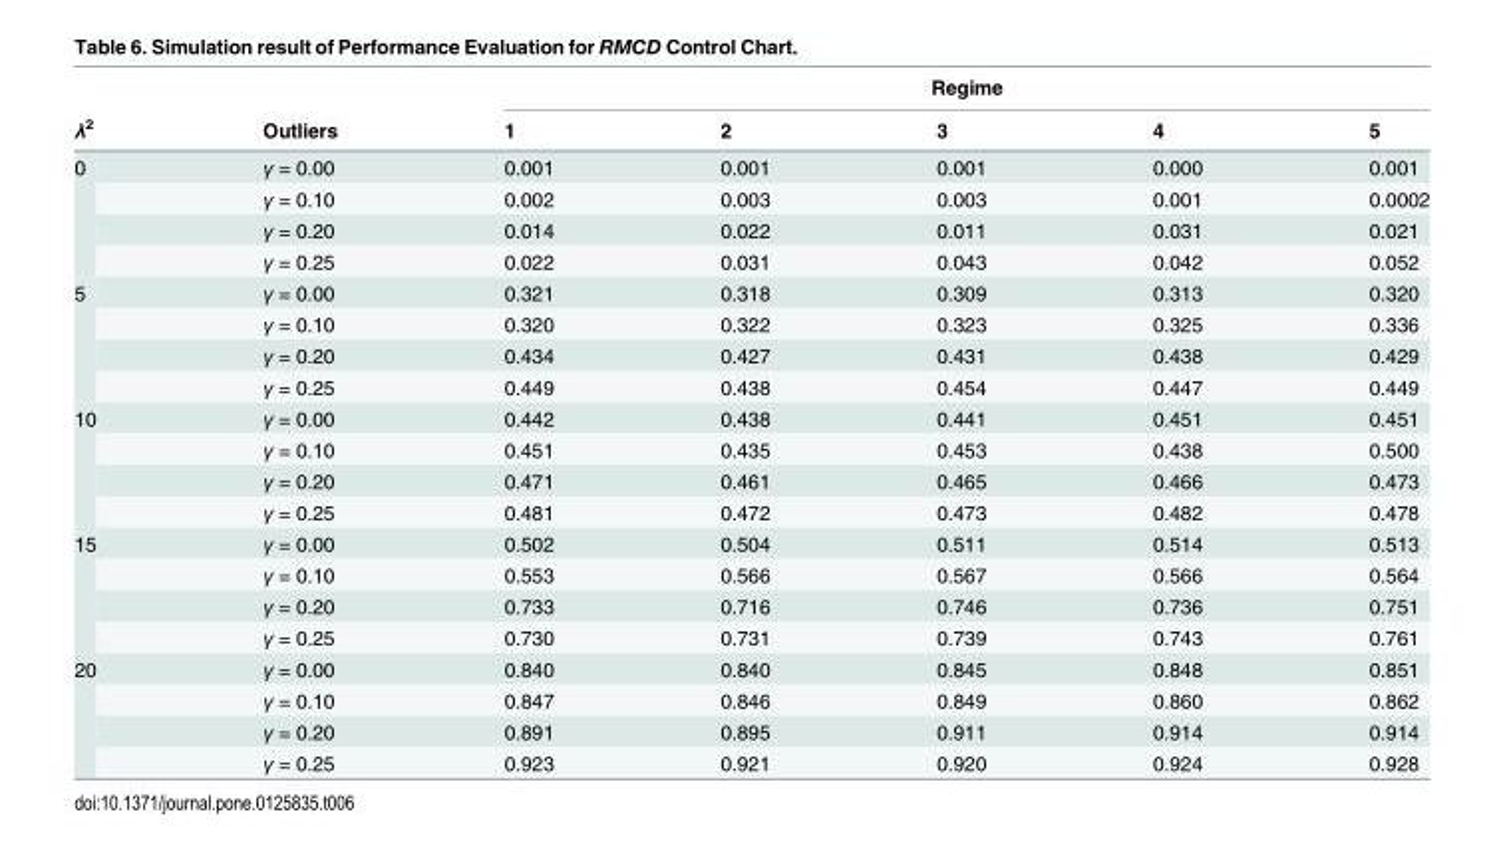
<table><thead><tr><td rowspan="2">λ<sup>2</sup></td><td rowspan="2">Outliers</td><td colspan="5">Regime</td></tr><tr><td>1</td><td>2</td><td>3</td><td>4</td><td>5</td></tr></thead><tbody><tr><td rowspan="4">0</td><td>γ = 0.00</td><td>0.001</td><td>0.001</td><td>0.001</td><td>0.000</td><td>0.001</td></tr><tr><td>γ = 0.10</td><td>0.002</td><td>0.003</td><td>0.003</td><td>0.001</td><td>0.0002</td></tr><tr><td>γ = 0.20</td><td>0.014</td><td>0.022</td><td>0.011</td><td>0.031</td><td>0.021</td></tr><tr><td>γ = 0.25</td><td>0.022</td><td>0.031</td><td>0.043</td><td>0.042</td><td>0.052</td></tr><tr><td rowspan="4">5</td><td>γ = 0.00</td><td>0.321</td><td>0.318</td><td>0.309</td><td>0.313</td><td>0.320</td></tr><tr><td>γ = 0.10</td><td>0.320</td><td>0.322</td><td>0.323</td><td>0.325</td><td>0.336</td></tr><tr><td>γ = 0.20</td><td>0.434</td><td>0.427</td><td>0.431</td><td>0.438</td><td>0.429</td></tr><tr><td>γ = 0.25</td><td>0.449</td><td>0.438</td><td>0.454</td><td>0.447</td><td>0.449</td></tr><tr><td rowspan="4">10</td><td>γ = 0.00</td><td>0.442</td><td>0.438</td><td>0.441</td><td>0.451</td><td>0.451</td></tr><tr><td>γ = 0.10</td><td>0.451</td><td>0.435</td><td>0.453</td><td>0.438</td><td>0.500</td></tr><tr><td>γ = 0.20</td><td>0.471</td><td>0.461</td><td>0.465</td><td>0.466</td><td>0.473</td></tr><tr><td>γ = 0.25</td><td>0.481</td><td>0.472</td><td>0.473</td><td>0.482</td><td>0.478</td></tr><tr><td rowspan="4">15</td><td>γ = 0.00</td><td>0.502</td><td>0.504</td><td>0.511</td><td>0.514</td><td>0.513</td></tr><tr><td>γ = 0.10</td><td>0.553</td><td>0.566</td><td>0.567</td><td>0.566</td><td>0.564</td></tr><tr><td>γ = 0.20</td><td>0.733</td><td>0.716</td><td>0.746</td><td>0.736</td><td>0.751</td></tr><tr><td>γ = 0.25</td><td>0.730</td><td>0.731</td><td>0.739</td><td>0.743</td><td>0.761</td></tr><tr><td rowspan="4">20</td><td>γ = 0.00</td><td>0.840</td><td>0.840</td><td>0.845</td><td>0.848</td><td>0.851</td></tr><tr><td>γ = 0.10</td><td>0.847</td><td>0.846</td><td>0.849</td><td>0.860</td><td>0.862</td></tr><tr><td>γ = 0.20</td><td>0.891</td><td>0.895</td><td>0.911</td><td>0.914</td><td>0.914</td></tr><tr><td>γ = 0.25</td><td>0.923</td><td>0.921</td><td>0.920</td><td>0.924</td><td>0.928</td></tr></tbody></table>